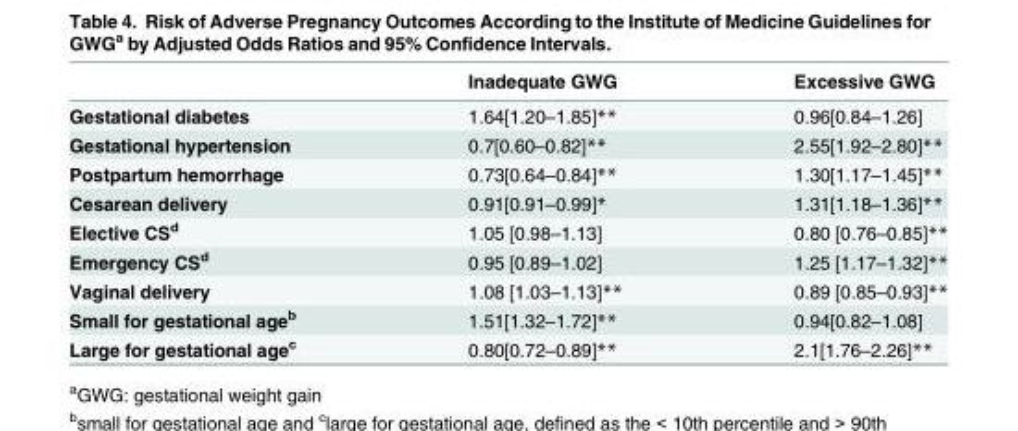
<table><thead><tr><td></td><td>Inadequate GWG</td><td>Excessive GWG</td></tr></thead><tbody><tr><td>Gestational diabetes</td><td>1.64[1.20–1.85]**</td><td>0.96[0.84–1.26]</td></tr><tr><td>Gestational hypertension</td><td>0.7[0.60–0.82]**</td><td>2.55[1.92–2.80]**</td></tr><tr><td>Postpartum hemorrhage</td><td>0.73[0.64–0.84]**</td><td>1.30[1.17–1.45]**</td></tr><tr><td>Cesarean delivery</td><td>0.91[0.91–0.99]*</td><td>1.31[1.18–1.36]**</td></tr><tr><td>Elective CS<sup>d</sup></td><td>1.05 [0.98–1.13]</td><td>0.80 [0.76–0.85]**</td></tr><tr><td>Emergency CS<sup>d</sup></td><td>0.95 [0.89–1.02]</td><td>1.25 [1.17–1.32]**</td></tr><tr><td>Vaginal delivery</td><td>1.08 [1.03–1.13]**</td><td>0.89 [0.85–0.93]**</td></tr><tr><td>Small for gestational age<sup>b</sup></td><td>1.51[1.32–1.72]**</td><td>0.94[0.82–1.08]</td></tr><tr><td>Large for gestational age<sup>c</sup></td><td>0.80[0.72–0.89]**</td><td>2.1[1.76–2.26]**</td></tr></tbody></table>